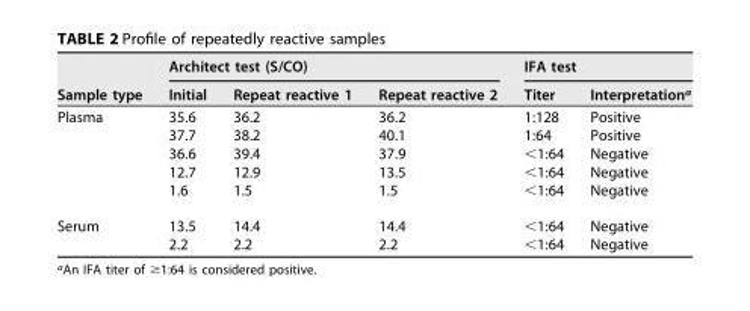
<table><thead><tr><td rowspan="2">Sample type</td><td colspan="3">Architect test (S/CO)</td><td colspan="2">IFA test</td></tr><tr><td>Initial</td><td>Repeat reactive 1</td><td>Repeat reactive 2</td><td>Titer</td><td>Interpretation<sup>a</sup></td></tr></thead><tbody><tr><td rowspan="5">Plasma</td><td>35.6</td><td>36.2</td><td>36.2</td><td>1:128</td><td>Positive</td></tr><tr><td>37.7</td><td>38.2</td><td>40.1</td><td>1:64</td><td>Positive</td></tr><tr><td>36.6</td><td>39.4</td><td>37.9</td><td>&lt;1:64</td><td>Negative</td></tr><tr><td>12.7</td><td>12.9</td><td>13.5</td><td>&lt;1:64</td><td>Negative</td></tr><tr><td>1.6</td><td>1.5</td><td>1.5</td><td>&lt;1:64</td><td>Negative</td></tr><tr><td rowspan="2">Serum</td><td>13.5</td><td>14.4</td><td>14.4</td><td>&lt;1:64</td><td>Negative</td></tr><tr><td>2.2</td><td>2.2</td><td>2.2</td><td>&lt;1:64</td><td>Negative</td></tr></tbody></table>